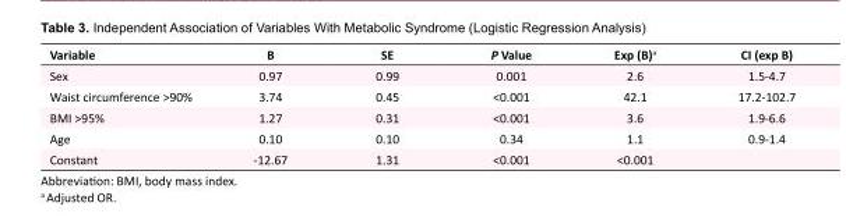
<table><tbody><tr><td>Variable</td><td>B</td><td>SE</td><td>P Value</td><td>Exp (B)<sup>a</sup></td><td>CI (exp B)</td></tr><tr><td>Sex</td><td>0.97</td><td>0.99</td><td>0.001</td><td>2.6</td><td>1.5-4.7</td></tr><tr><td>Waist circumference &gt;90%</td><td>3.74</td><td>0.45</td><td>&lt;0.001</td><td>42.1</td><td>17.2-102.7</td></tr><tr><td>BMI &gt;95%</td><td>1.27</td><td>0.31</td><td>&lt;0.001</td><td>3.6</td><td>1.9-6.6</td></tr><tr><td>Age</td><td>0.10</td><td>0.10</td><td>0.34</td><td>1.1</td><td>0.9-1.4</td></tr><tr><td>Constant</td><td>-12.67</td><td>1.31</td><td>&lt;0.001</td><td>&lt;0.001</td><td></td></tr></tbody></table>